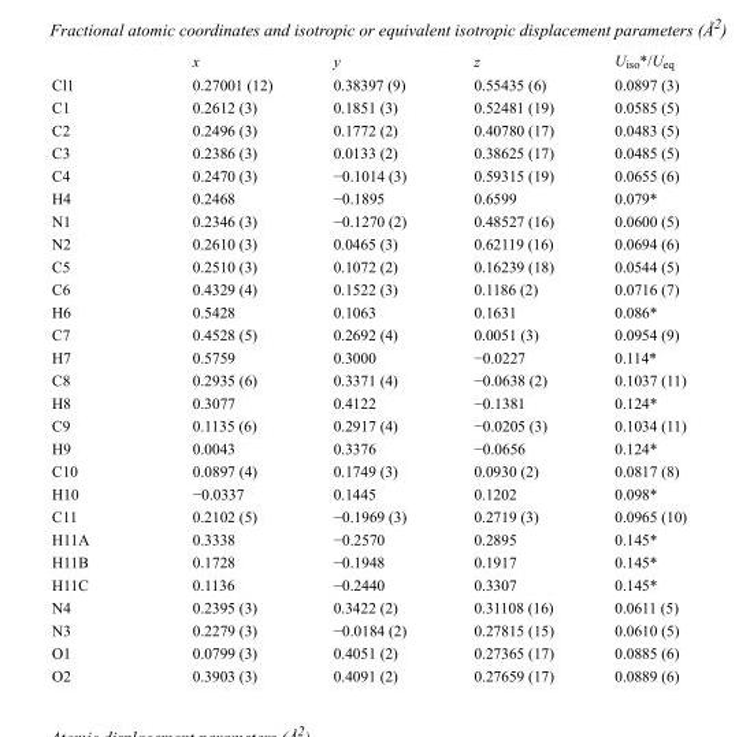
<table><thead><tr><td></td><td>x</td><td>y</td><td>z</td><td>U<sub>iso</sub>*/U<sub>eq</sub></td></tr></thead><tbody><tr><td>Cl1</td><td>0.27001 (12)</td><td>0.38397 (9)</td><td>0.55435 (6)</td><td>0.0897 (3)</td></tr><tr><td>C1</td><td>0.2612 (3)</td><td>0.1851 (3)</td><td>0.52481 (19)</td><td>0.0585 (5)</td></tr><tr><td>C2</td><td>0.2496 (3)</td><td>0.1772 (2)</td><td>0.40780 (17)</td><td>0.0483 (5)</td></tr><tr><td>C3</td><td>0.2386 (3)</td><td>0.0133 (2)</td><td>0.38625 (17)</td><td>0.0485 (5)</td></tr><tr><td>C4</td><td>0.2470 (3)</td><td>−0.1014 (3)</td><td>0.59315 (19)</td><td>0.0655 (6)</td></tr><tr><td>H4</td><td>0.2468</td><td>−0.1895</td><td>0.6599</td><td>0.079*</td></tr><tr><td>N1</td><td>0.2346 (3)</td><td>−0.1270 (2)</td><td>0.48527 (16)</td><td>0.0600 (5)</td></tr><tr><td>N2</td><td>0.2610 (3)</td><td>0.0465 (3)</td><td>0.62119 (16)</td><td>0.0694 (6)</td></tr><tr><td>C5</td><td>0.2510 (3)</td><td>0.1072 (2)</td><td>0.16239 (18)</td><td>0.0544 (5)</td></tr><tr><td>C6</td><td>0.4329 (4)</td><td>0.1522 (3)</td><td>0.1186 (2)</td><td>0.0716 (7)</td></tr><tr><td>H6</td><td>0.5428</td><td>0.1063</td><td>0.1631</td><td>0.086*</td></tr><tr><td>C7</td><td>0.4528 (5)</td><td>0.2692 (4)</td><td>0.0051 (3)</td><td>0.0954 (9)</td></tr><tr><td>H7</td><td>0.5759</td><td>0.3000</td><td>−0.0227</td><td>0.114*</td></tr><tr><td>C8</td><td>0.2935 (6)</td><td>0.3371 (4)</td><td>−0.0638 (2)</td><td>0.1037 (11)</td></tr><tr><td>H8</td><td>0.3077</td><td>0.4122</td><td>−0.1381</td><td>0.124*</td></tr><tr><td>C9</td><td>0.1135 (6)</td><td>0.2917 (4)</td><td>−0.0205 (3)</td><td>0.1034 (11)</td></tr><tr><td>H9</td><td>0.0043</td><td>0.3376</td><td>−0.0656</td><td>0.124*</td></tr><tr><td>C10</td><td>0.0897 (4)</td><td>0.1749 (3)</td><td>0.0930 (2)</td><td>0.0817 (8)</td></tr><tr><td>H10</td><td>−0.0337</td><td>0.1445</td><td>0.1202</td><td>0.098*</td></tr><tr><td>C11</td><td>0.2102 (5)</td><td>−0.1969 (3)</td><td>0.2719 (3)</td><td>0.0965 (10)</td></tr><tr><td>H11A</td><td>0.3338</td><td>−0.2570</td><td>0.2895</td><td>0.145*</td></tr><tr><td>H11B</td><td>0.1728</td><td>−0.1948</td><td>0.1917</td><td>0.145*</td></tr><tr><td>H11C</td><td>0.1136</td><td>−0.2440</td><td>0.3307</td><td>0.145*</td></tr><tr><td>N4</td><td>0.2395 (3)</td><td>0.3422 (2)</td><td>0.31108 (16)</td><td>0.0611 (5)</td></tr><tr><td>N3</td><td>0.2279 (3)</td><td>−0.0184 (2)</td><td>0.27815 (15)</td><td>0.0610 (5)</td></tr><tr><td>O1</td><td>0.0799 (3)</td><td>0.4051 (2)</td><td>0.27365 (17)</td><td>0.0885 (6)</td></tr><tr><td>O2</td><td>0.3903 (3)</td><td>0.4091 (2)</td><td>0.27659 (17)</td><td>0.0889 (6)</td></tr></tbody></table>